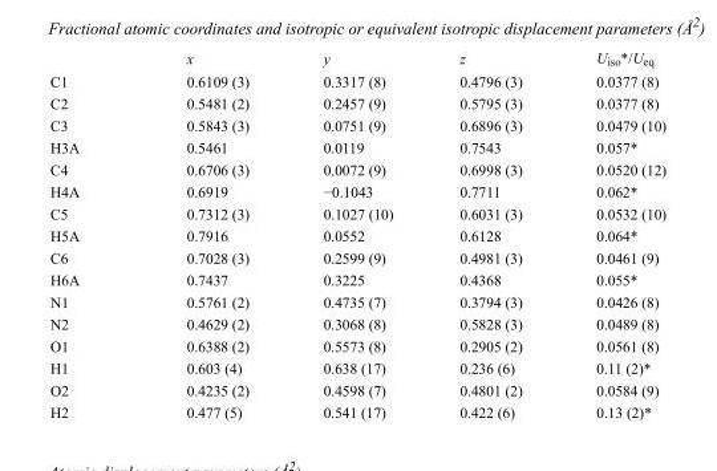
<table><thead><tr><td></td><td>x</td><td>y</td><td>z</td><td>U<sub>iso</sub>*/U<sub>eq</sub></td></tr></thead><tbody><tr><td>C1</td><td>0.6109 (3)</td><td>0.3317 (8)</td><td>0.4796 (3)</td><td>0.0377 (8)</td></tr><tr><td>C2</td><td>0.5481 (2)</td><td>0.2457 (9)</td><td>0.5795 (3)</td><td>0.0377 (8)</td></tr><tr><td>C3</td><td>0.5843 (3)</td><td>0.0751 (9)</td><td>0.6896 (3)</td><td>0.0479 (10)</td></tr><tr><td>H3A</td><td>0.5461</td><td>0.0119</td><td>0.7543</td><td>0.057*</td></tr><tr><td>C4</td><td>0.6706 (3)</td><td>0.0072 (9)</td><td>0.6998 (3)</td><td>0.0520 (12)</td></tr><tr><td>H4A</td><td>0.6919</td><td>−0.1043</td><td>0.7711</td><td>0.062*</td></tr><tr><td>C5</td><td>0.7312 (3)</td><td>0.1027 (10)</td><td>0.6031 (3)</td><td>0.0532 (10)</td></tr><tr><td>H5A</td><td>0.7916</td><td>0.0552</td><td>0.6128</td><td>0.064*</td></tr><tr><td>C6</td><td>0.7028 (3)</td><td>0.2599 (9)</td><td>0.4981 (3)</td><td>0.0461 (9)</td></tr><tr><td>H6A</td><td>0.7437</td><td>0.3225</td><td>0.4368</td><td>0.055*</td></tr><tr><td>N1</td><td>0.5761 (2)</td><td>0.4735 (7)</td><td>0.3794 (3)</td><td>0.0426 (8)</td></tr><tr><td>N2</td><td>0.4629 (2)</td><td>0.3068 (8)</td><td>0.5828 (3)</td><td>0.0489 (8)</td></tr><tr><td>O1</td><td>0.6388 (2)</td><td>0.5573 (8)</td><td>0.2905 (2)</td><td>0.0561 (8)</td></tr><tr><td>H1</td><td>0.603 (4)</td><td>0.638 (17)</td><td>0.236 (6)</td><td>0.11 (2)*</td></tr><tr><td>O2</td><td>0.4235 (2)</td><td>0.4598 (7)</td><td>0.4801 (2)</td><td>0.0584 (9)</td></tr><tr><td>H2</td><td>0.477 (5)</td><td>0.541 (17)</td><td>0.422 (6)</td><td>0.13 (2)*</td></tr></tbody></table>